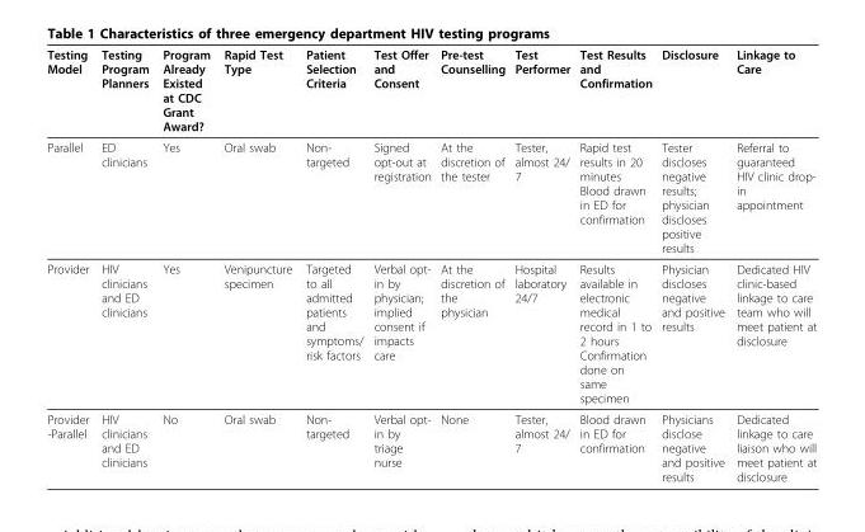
<table><thead><tr><td>Testing Model</td><td>Testing Program Planners</td><td>Program Already Existed at CDC Grant Award?</td><td>Rapid Test Type</td><td>Patient Selection Criteria</td><td>Test Offer and Consent</td><td>Pre-test Counselling</td><td>Test Performer</td><td>Test Results and Confirmation</td><td>Disclosure</td><td>Linkage to Care</td></tr></thead><tbody><tr><td>Parallel</td><td>ED clinicians</td><td>Yes</td><td>Oral swab</td><td>Non- targeted</td><td>Signed opt-out at registration</td><td>At the discretion of the tester</td><td>Tester, almost 24/ 7</td><td>Rapid test results in 20 minutes Blood drawn in ED for confirmation</td><td>Tester discloses negative results; physician discloses positive results</td><td>Referral to guaranteed HIV clinic drop- in appointment</td></tr><tr><td>Provider</td><td>HIV clinicians and ED clinicians</td><td>Yes</td><td>Venipuncture specimen</td><td>Targeted to all admitted patients and symptoms/ risk factors</td><td>Verbal opt- in by physician; implied consent if impacts care</td><td>At the discretion of the physician</td><td>Hospital laboratory 24/7</td><td>Results available in electronic medical record in 1 to 2 hours Confirmation done on same specimen</td><td>Physician discloses negative and positive results</td><td>Dedicated HIV clinic-based linkage to care team who will meet patient at disclosure</td></tr><tr><td>Provider -Parallel</td><td>HIV clinicians and ED clinicians</td><td>No</td><td>Oral swab</td><td>Non- targeted</td><td>Verbal opt- in by triage nurse</td><td>None</td><td>Tester, almost 24/ 7</td><td>Blood drawn in ED for confirmation</td><td>Physicians disclose negative and positive results</td><td>Dedicated linkage to care liaison who will meet patient at disclosure</td></tr></tbody></table>